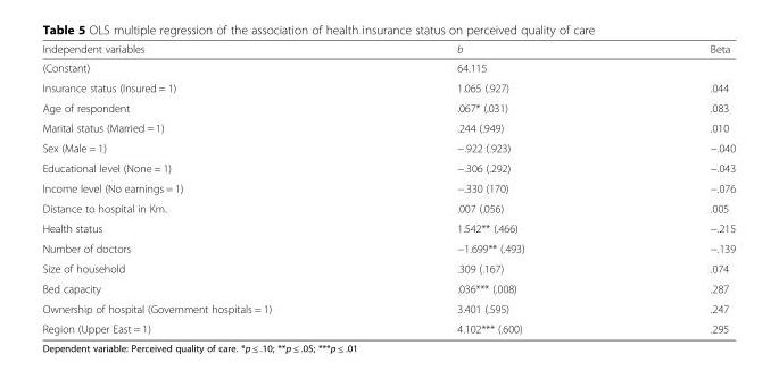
<table><thead><tr><td>Independent variables</td><td>b</td><td>Beta</td></tr></thead><tbody><tr><td>(Constant)</td><td>64.115</td><td></td></tr><tr><td>Insurance status (Insured = 1)</td><td>1.065 (.927)</td><td>.044</td></tr><tr><td>Age of respondent</td><td>.067* (.031)</td><td>.083</td></tr><tr><td>Marital status (Married = 1)</td><td>.244 (.949)</td><td>.010</td></tr><tr><td>Sex (Male = 1)</td><td>−.922 (.923)</td><td>−.040</td></tr><tr><td>Educational level (None = 1)</td><td>−.306 (.292)</td><td>−.043</td></tr><tr><td>Income level (No earnings = 1)</td><td>−.330 (170)</td><td>−.076</td></tr><tr><td>Distance to hospital in Km.</td><td>.007 (.056)</td><td>.005</td></tr><tr><td>Health status</td><td>1.542** (.466)</td><td>−.215</td></tr><tr><td>Number of doctors</td><td>−1.699** (.493)</td><td>−.139</td></tr><tr><td>Size of household</td><td>.309 (.167)</td><td>.074</td></tr><tr><td>Bed capacity</td><td>.036*** (.008)</td><td>.287</td></tr><tr><td>Ownership of hospital (Government hospitals = 1)</td><td>3.401 (.595)</td><td>.247</td></tr><tr><td>Region (Upper East = 1)</td><td>4.102*** (.600)</td><td>.295</td></tr></tbody></table>